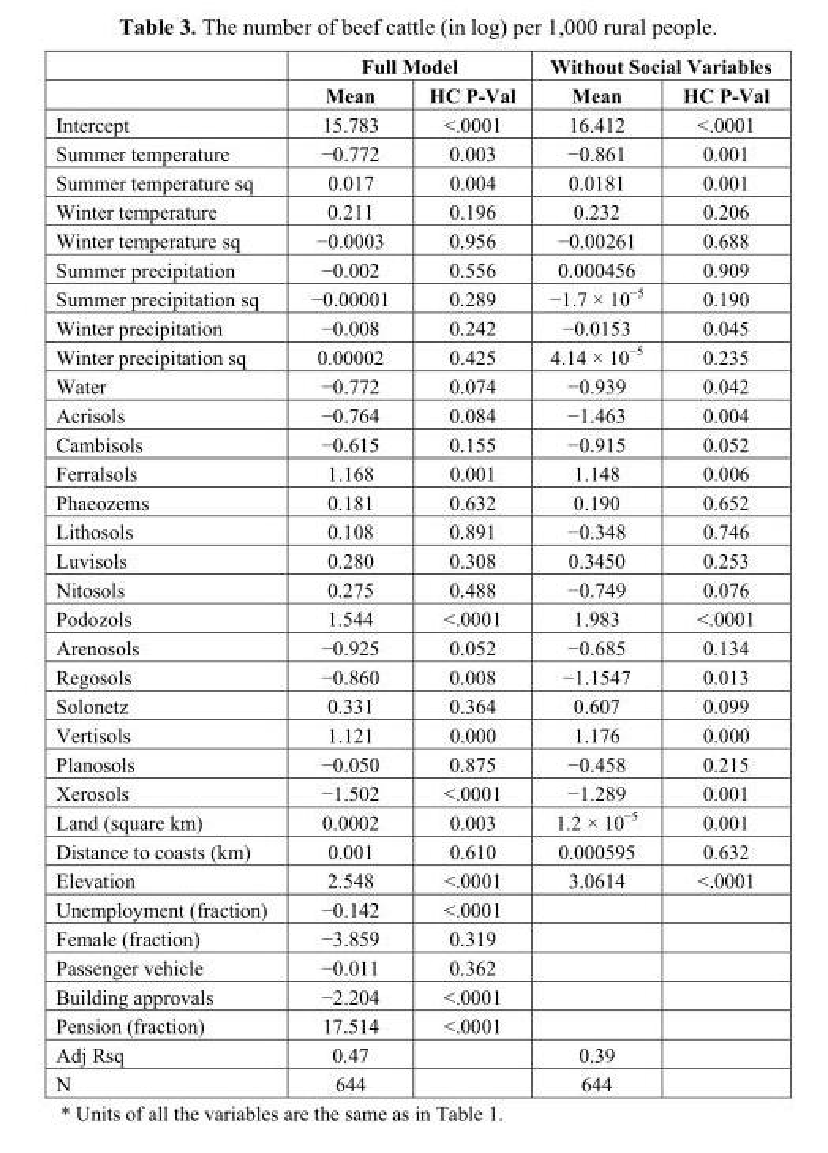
<table><thead><tr><td rowspan="2"></td><td colspan="2">Full Model</td><td colspan="2">Without Social Variables</td></tr><tr><td>Mean</td><td>HC P-Val</td><td>Mean</td><td>HC P-Val</td></tr></thead><tbody><tr><td>Intercept</td><td>15.783</td><td>&lt;.0001</td><td>16.412</td><td>&lt;.0001</td></tr><tr><td>Summer temperature</td><td>−0.772</td><td>0.003</td><td>−0.861</td><td>0.001</td></tr><tr><td>Summer temperature sq</td><td>0.017</td><td>0.004</td><td>0.0181</td><td>0.001</td></tr><tr><td>Winter temperature</td><td>0.211</td><td>0.196</td><td>0.232</td><td>0.206</td></tr><tr><td>Winter temperature sq</td><td>−0.0003</td><td>0.956</td><td>−0.00261</td><td>0.688</td></tr><tr><td>Summer precipitation</td><td>−0.002</td><td>0.556</td><td>0.000456</td><td>0.909</td></tr><tr><td>Summer precipitation sq</td><td>−0.00001</td><td>0.289</td><td>−1.7 × 10<sup>−5</sup></td><td>0.190</td></tr><tr><td>Winter precipitation</td><td>−0.008</td><td>0.242</td><td>−0.0153</td><td>0.045</td></tr><tr><td>Winter precipitation sq</td><td>0.00002</td><td>0.425</td><td>4.14 × 10<sup>−5</sup></td><td>0.235</td></tr><tr><td>Water</td><td>−0.772</td><td>0.074</td><td>−0.939</td><td>0.042</td></tr><tr><td>Acrisols</td><td>−0.764</td><td>0.084</td><td>−1.463</td><td>0.004</td></tr><tr><td>Cambisols</td><td>−0.615</td><td>0.155</td><td>−0.915</td><td>0.052</td></tr><tr><td>Ferralsols</td><td>1.168</td><td>0.001</td><td>1.148</td><td>0.006</td></tr><tr><td>Phaeozems</td><td>0.181</td><td>0.632</td><td>0.190</td><td>0.652</td></tr><tr><td>Lithosols</td><td>0.108</td><td>0.891</td><td>−0.348</td><td>0.746</td></tr><tr><td>Luvisols</td><td>0.280</td><td>0.308</td><td>0.3450</td><td>0.253</td></tr><tr><td>Nitosols</td><td>0.275</td><td>0.488</td><td>−0.749</td><td>0.076</td></tr><tr><td>Podozols</td><td>1.544</td><td>&lt;.0001</td><td>1.983</td><td>&lt;.0001</td></tr><tr><td>Arenosols</td><td>−0.925</td><td>0.052</td><td>−0.685</td><td>0.134</td></tr><tr><td>Regosols</td><td>−0.860</td><td>0.008</td><td>−1.1547</td><td>0.013</td></tr><tr><td>Solonetz</td><td>0.331</td><td>0.364</td><td>0.607</td><td>0.099</td></tr><tr><td>Vertisols</td><td>1.121</td><td>0.000</td><td>1.176</td><td>0.000</td></tr><tr><td>Planosols</td><td>−0.050</td><td>0.875</td><td>−0.458</td><td>0.215</td></tr><tr><td>Xerosols</td><td>−1.502</td><td>&lt;.0001</td><td>−1.289</td><td>0.001</td></tr><tr><td>Land (square km)</td><td>0.0002</td><td>0.003</td><td>1.2 × 10<sup>−5</sup></td><td>0.001</td></tr><tr><td>Distance to coasts (km)</td><td>0.001</td><td>0.610</td><td>0.000595</td><td>0.632</td></tr><tr><td>Elevation</td><td>2.548</td><td>&lt;.0001</td><td>3.0614</td><td>&lt;.0001</td></tr><tr><td>Unemployment (fraction)</td><td>−0.142</td><td>&lt;.0001</td><td></td><td></td></tr><tr><td>Female (fraction)</td><td>−3.859</td><td>0.319</td><td></td><td></td></tr><tr><td>Passenger vehicle</td><td>−0.011</td><td>0.362</td><td></td><td></td></tr><tr><td>Building approvals</td><td>−2.204</td><td>&lt;.0001</td><td></td><td></td></tr><tr><td>Pension (fraction)</td><td>17.514</td><td>&lt;.0001</td><td></td><td></td></tr><tr><td>Adj Rsq</td><td>0.47</td><td></td><td>0.39</td><td></td></tr><tr><td>N</td><td>644</td><td></td><td>644</td><td></td></tr></tbody></table>